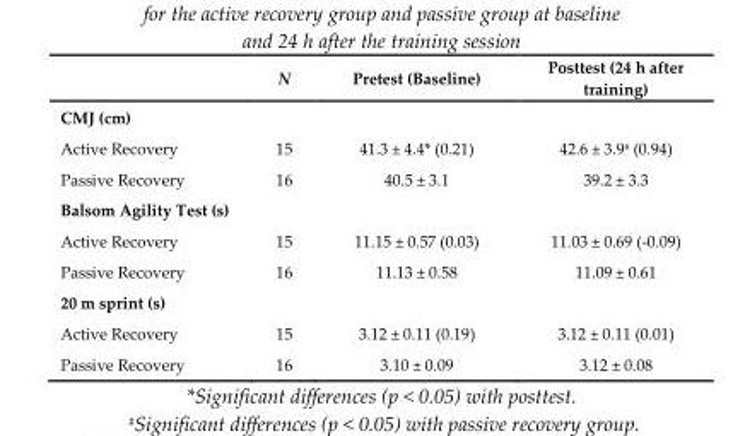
<table><thead><tr><td></td><td>N</td><td>Pretest (Baseline)</td><td>Posttest (24 h after training)</td></tr></thead><tbody><tr><td colspan="4">CMJ (cm)</td></tr><tr><td>Active Recovery</td><td>15</td><td>41.3 ± 4.4* (0.21)</td><td>42.6 ± 3.9<sup>#</sup> (0.94)</td></tr><tr><td>Passive Recovery</td><td>16</td><td>40.5 ± 3.1</td><td>39.2 ± 3.3</td></tr><tr><td colspan="4">Balsom Agility Test (s)</td></tr><tr><td>Active Recovery</td><td>15</td><td>11.15 ± 0.57 (0.03)</td><td>11.03 ± 0.69 (-0.09)</td></tr><tr><td>Passive Recovery</td><td>16</td><td>11.13 ± 0.58</td><td>11.09 ± 0.61</td></tr><tr><td colspan="4">20 m sprint (s)</td></tr><tr><td>Active Recovery</td><td>15</td><td>3.12 ± 0.11 (0.19)</td><td>3.12 ± 0.11 (0.01)</td></tr><tr><td>Passive Recovery</td><td>16</td><td>3.10 ± 0.09</td><td>3.12 ± 0.08</td></tr></tbody></table>